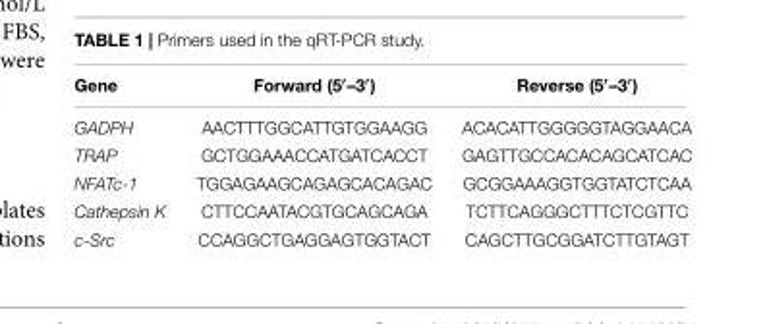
<table><thead><tr><td>Gene</td><td>Forward (5′–3′)</td><td>Reverse (5′–3′)</td></tr></thead><tbody><tr><td>GADPH</td><td>AACTTTGGCATTGTGGAAGG</td><td>ACACATTGGGGGTAGGAACA</td></tr><tr><td>TRAP</td><td>GCTGGAAACCATGATCACCT</td><td>GAGTTGCCACACAGCATCAC</td></tr><tr><td>NFATc-1</td><td>TGGAGAAGCAGAGCACAGAC</td><td>GCGGAAAGGTGGTATCTCAA</td></tr><tr><td>Cathepsin K</td><td>CTTCCAATACGTGCAGCAGA</td><td>TCTTCAGGGCTTTCTCGTTC</td></tr><tr><td>c-Src</td><td>CCAGGCTGAGGAGTGGTACT</td><td>CAGCTTGCGGATCTTGTAGT</td></tr></tbody></table>